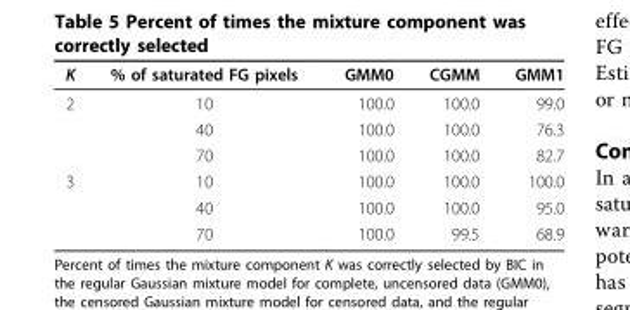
<table><thead><tr><td>K</td><td>% of saturated FG pixels</td><td>GMM0</td><td>CGMM</td><td>GMM1</td></tr></thead><tbody><tr><td rowspan="3">2</td><td>10</td><td>100.0</td><td>100.0</td><td>99.0</td></tr><tr><td>40</td><td>100.0</td><td>100.0</td><td>76.3</td></tr><tr><td>70</td><td>100.0</td><td>100.0</td><td>82.7</td></tr><tr><td rowspan="3">3</td><td>10</td><td>100.0</td><td>100.0</td><td>100.0</td></tr><tr><td>40</td><td>100.0</td><td>100.0</td><td>95.0</td></tr><tr><td>70</td><td>100.0</td><td>99.5</td><td>68.9</td></tr></tbody></table>